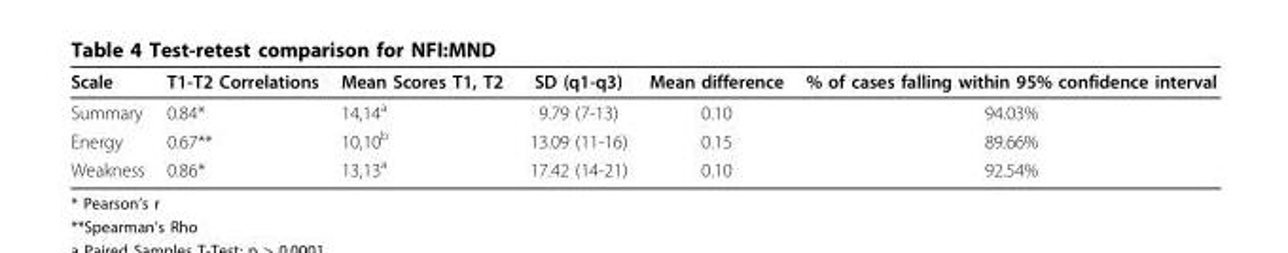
<table><thead><tr><td>Scale</td><td>T1-T2 Correlations</td><td>Mean Scores T1, T2</td><td>SD (q1-q3)</td><td>Mean difference</td><td>% of cases falling within 95% confidence interval</td></tr></thead><tbody><tr><td>Summary</td><td>0.84*</td><td>14,14<sup>a</sup></td><td>9.79 (7-13)</td><td>0.10</td><td>94.03%</td></tr><tr><td>Energy</td><td>0.67**</td><td>10,10<sup>b</sup></td><td>13.09 (11-16)</td><td>0.15</td><td>89.66%</td></tr><tr><td>Weakness</td><td>0.86*</td><td>13,13<sup>a</sup></td><td>17.42 (14-21)</td><td>0.10</td><td>92.54%</td></tr></tbody></table>